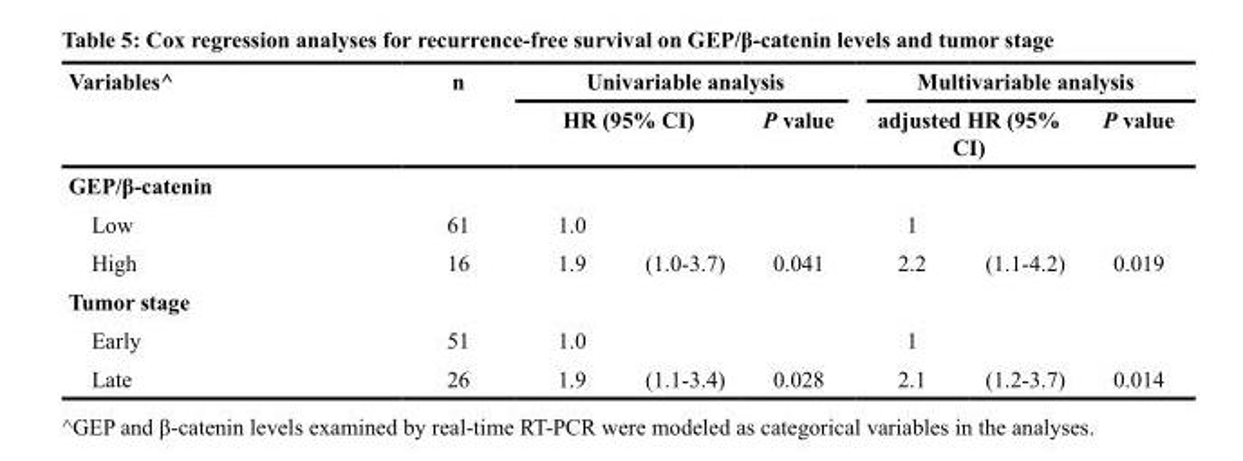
<table><thead><tr><td rowspan="2">Variables^</td><td rowspan="2">n</td><td colspan="3">Univariable analysis</td><td colspan="3">Multivariable analysis</td></tr><tr><td colspan="2">HR (95% CI)</td><td>P value</td><td colspan="2">adjusted HR (95% CI)</td><td>P value</td></tr><tr><td colspan="8">GEP/β-catenin</td></tr><tr><td>Low</td><td>61</td><td>1.0</td><td></td><td></td><td>1</td><td></td><td></td></tr></thead><tbody><tr><td>High</td><td>16</td><td>1.9</td><td>(1.0-3.7)</td><td>0.041</td><td>2.2</td><td>(1.1-4.2)</td><td>0.019</td></tr><tr><td colspan="8">Tumor stage</td></tr><tr><td>Early</td><td>51</td><td>1.0</td><td></td><td></td><td>1</td><td></td><td></td></tr><tr><td>Late</td><td>26</td><td>1.9</td><td>(1.1-3.4)</td><td>0.028</td><td>2.1</td><td>(1.2-3.7)</td><td>0.014</td></tr></tbody></table>